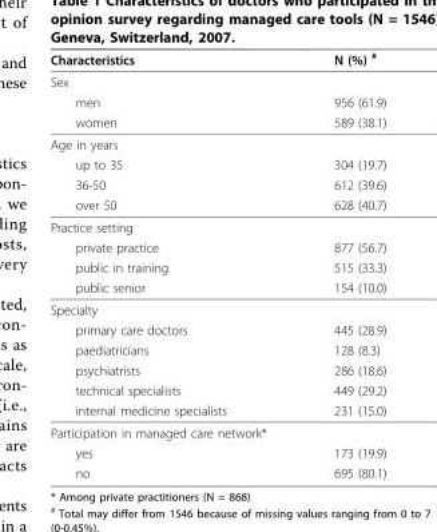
<table><thead><tr><td>Characteristics</td><td>N (%) <sup>#</sup></td></tr></thead><tbody><tr><td colspan="2">Sex</td></tr><tr><td>men</td><td>956 (61.9)</td></tr><tr><td>women</td><td>589 (38.1)</td></tr><tr><td colspan="2">Age in years</td></tr><tr><td>up to 35</td><td>304 (19.7)</td></tr><tr><td>36-50</td><td>612 (39.6)</td></tr><tr><td>over 50</td><td>628 (40.7)</td></tr><tr><td colspan="2">Practice setting</td></tr><tr><td>private practice</td><td>877 (56.7)</td></tr><tr><td>public in training</td><td>515 (33.3)</td></tr><tr><td>public senior</td><td>154 (10.0)</td></tr><tr><td colspan="2">Specialty</td></tr><tr><td>primary care doctors</td><td>445 (28.9)</td></tr><tr><td>paediatricians</td><td>128 (8.3)</td></tr><tr><td>psychiatrists</td><td>286 (18.6)</td></tr><tr><td>technical specialists</td><td>449 (29.2)</td></tr><tr><td>internal medicine specialists</td><td>231 (15.0)</td></tr><tr><td colspan="2">Participation in managed care network*</td></tr><tr><td>yes</td><td>173 (19.9)</td></tr><tr><td>no</td><td>695 (80.1)</td></tr></tbody></table>